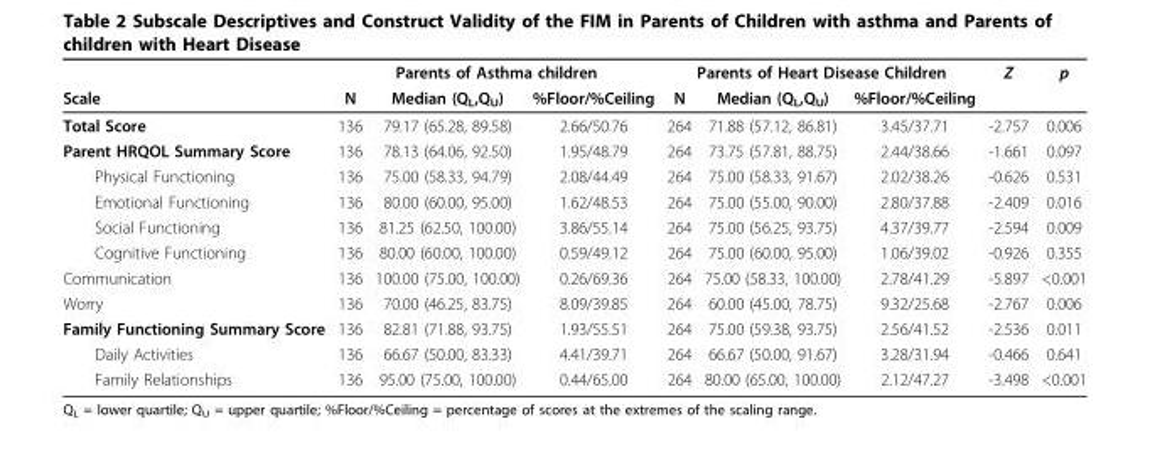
<table><thead><tr><td rowspan="2">Scale</td><td colspan="3">Parents of Asthma children</td><td colspan="3">Parents of Heart Disease Children</td><td rowspan="2">Z</td><td rowspan="2">p</td></tr><tr><td>N</td><td>Median (Q<sub>L</sub>,Q<sub>U</sub>)</td><td>%Floor/%Ceiling</td><td>N</td><td>Median (Q<sub>L</sub>,Q<sub>U</sub>)</td><td>%Floor/%Ceiling</td></tr></thead><tbody><tr><td>Total Score</td><td>136</td><td>79.17 (65.28, 89.58)</td><td>2.66/50.76</td><td>264</td><td>71.88 (57.12, 86.81)</td><td>3.45/37.71</td><td>-2.757</td><td>0.006</td></tr><tr><td>Parent HRQOL Summary Score</td><td>136</td><td>78.13 (64.06, 92.50)</td><td>1.95/48.79</td><td>264</td><td>73.75 (57.81, 88.75)</td><td>2.44/38.66</td><td>-1.661</td><td>0.097</td></tr><tr><td>Physical Functioning</td><td>136</td><td>75.00 (58.33, 94.79)</td><td>2.08/44.49</td><td>264</td><td>75.00 (58.33, 91.67)</td><td>2.02/38.26</td><td>-0.626</td><td>0.531</td></tr><tr><td>Emotional Functioning</td><td>136</td><td>80.00 (60.00, 95.00)</td><td>1.62/48.53</td><td>264</td><td>75.00 (55.00, 90.00)</td><td>2.80/37.88</td><td>-2.409</td><td>0.016</td></tr><tr><td>Social Functioning</td><td>136</td><td>81.25 (62.50, 100.00)</td><td>3.86/55.14</td><td>264</td><td>75.00 (56.25, 93.75)</td><td>4.37/39.77</td><td>-2.594</td><td>0.009</td></tr><tr><td>Cognitive Functioning</td><td>136</td><td>80.00 (60.00, 100.00)</td><td>0.59/49.12</td><td>264</td><td>75.00 (60.00, 95.00)</td><td>1.06/39.02</td><td>-0.926</td><td>0.355</td></tr><tr><td>Communication</td><td>136</td><td>100.00 (75.00, 100.00)</td><td>0.26/69.36</td><td>264</td><td>75.00 (58.33, 100.00)</td><td>2.78/41.29</td><td>-5.897</td><td>&lt;0.001</td></tr><tr><td>Worry</td><td>136</td><td>70.00 (46.25, 83.75)</td><td>8.09/39.85</td><td>264</td><td>60.00 (45.00, 78.75)</td><td>9.32/25.68</td><td>-2.767</td><td>0.006</td></tr><tr><td>Family Functioning Summary Score</td><td>136</td><td>82.81 (71.88, 93.75)</td><td>1.93/55.51</td><td>264</td><td>75.00 (59.38, 93.75)</td><td>2.56/41.52</td><td>-2.536</td><td>0.011</td></tr><tr><td>Daily Activities</td><td>136</td><td>66.67 (50.00, 83.33)</td><td>4.41/39.71</td><td>264</td><td>66.67 (50.00, 91.67)</td><td>3.28/31.94</td><td>-0.466</td><td>0.641</td></tr><tr><td>Family Relationships</td><td>136</td><td>95.00 (75.00, 100.00)</td><td>0.44/65.00</td><td>264</td><td>80.00 (65.00, 100.00)</td><td>2.12/47.27</td><td>-3.498</td><td>&lt;0.001</td></tr></tbody></table>